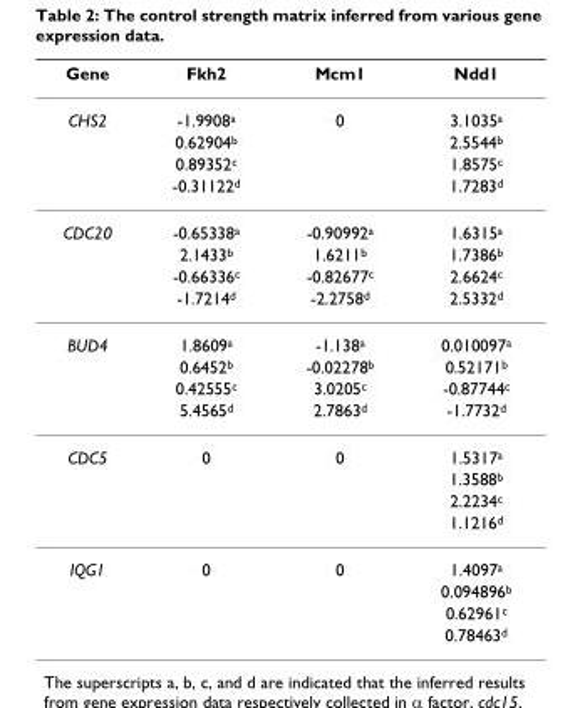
<table><thead><tr><td>Gene</td><td>Fkh2</td><td>Mcm1</td><td>Ndd1</td></tr></thead><tbody><tr><td rowspan="4">CHS2</td><td>-1.9908<sup>a</sup></td><td>0</td><td>3.1035<sup>a</sup></td></tr><tr><td>0.62904<sup>b</sup></td><td></td><td>2.5544<sup>b</sup></td></tr><tr><td>0.89352<sup>c</sup></td><td></td><td>1.8575<sup>c</sup></td></tr><tr><td>-0.31122<sup>d</sup></td><td></td><td>1.7283<sup>d</sup></td></tr><tr><td rowspan="4">CDC20</td><td>-0.65338<sup>a</sup></td><td>-0.90992<sup>a</sup></td><td>1.6315<sup>a</sup></td></tr><tr><td>2.1433<sup>b</sup></td><td>1.6211<sup>b</sup></td><td>1.7386<sup>b</sup></td></tr><tr><td>-0.66336<sup>c</sup></td><td>-0.82677<sup>c</sup></td><td>2.6624<sup>c</sup></td></tr><tr><td>-1.7214<sup>d</sup></td><td>-2.2758<sup>d</sup></td><td>2.5332<sup>d</sup></td></tr><tr><td rowspan="4">BUD4</td><td>1.8609<sup>a</sup></td><td>-1.138<sup>a</sup></td><td>0.010097<sup>a</sup></td></tr><tr><td>0.6452<sup>b</sup></td><td>-0.02278<sup>b</sup></td><td>0.52171<sup>b</sup></td></tr><tr><td>0.42555<sup>c</sup></td><td>3.0205<sup>c</sup></td><td>-0.87744<sup>c</sup></td></tr><tr><td>5.4565<sup>d</sup></td><td>2.7863<sup>d</sup></td><td>-1.7732<sup>d</sup></td></tr><tr><td rowspan="4">CDC5</td><td>0</td><td>0</td><td>1.5317<sup>a</sup></td></tr><tr><td></td><td></td><td>1.3588<sup>b</sup></td></tr><tr><td></td><td></td><td>2.2234<sup>c</sup></td></tr><tr><td></td><td></td><td>1.1216<sup>d</sup></td></tr><tr><td rowspan="4">IQG1</td><td>0</td><td>0</td><td>1.4097<sup>a</sup></td></tr><tr><td></td><td></td><td>0.094896<sup>b</sup></td></tr><tr><td></td><td></td><td>0.62961<sup>c</sup></td></tr><tr><td></td><td></td><td>0.78463<sup>d</sup></td></tr></tbody></table>